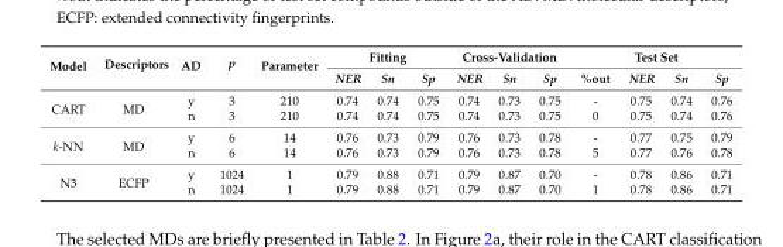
<table><thead><tr><td rowspan="2">Model</td><td rowspan="2">Descriptors</td><td rowspan="2">AD</td><td rowspan="2">p</td><td rowspan="2">Parameter</td><td colspan="3">Fitting</td><td colspan="3">Cross-Validation</td><td colspan="4">Test Set</td></tr><tr><td>NER</td><td>Sn</td><td>Sp</td><td>NER</td><td>Sn</td><td>Sp</td><td>%out</td><td>NER</td><td>Sn</td><td>Sp</td></tr></thead><tbody><tr><td rowspan="2">CART</td><td rowspan="2">MD</td><td>y</td><td>3</td><td>210</td><td>0.74</td><td>0.74</td><td>0.75</td><td>0.74</td><td>0.73</td><td>0.75</td><td>-</td><td>0.75</td><td>0.74</td><td>0.76</td></tr><tr><td>n</td><td>3</td><td>210</td><td>0.74</td><td>0.74</td><td>0.75</td><td>0.74</td><td>0.73</td><td>0.75</td><td>0</td><td>0.75</td><td>0.74</td><td>0.76</td></tr><tr><td rowspan="2">k-NN</td><td rowspan="2">MD</td><td>y</td><td>6</td><td>14</td><td>0.76</td><td>0.73</td><td>0.79</td><td>0.76</td><td>0.73</td><td>0.78</td><td>-</td><td>0.77</td><td>0.75</td><td>0.79</td></tr><tr><td>n</td><td>6</td><td>14</td><td>0.76</td><td>0.73</td><td>0.79</td><td>0.76</td><td>0.73</td><td>0.78</td><td>5</td><td>0.77</td><td>0.76</td><td>0.78</td></tr><tr><td rowspan="2">N3</td><td rowspan="2">ECFP</td><td>y</td><td>1024</td><td>1</td><td>0.79</td><td>0.88</td><td>0.71</td><td>0.79</td><td>0.87</td><td>0.70</td><td>-</td><td>0.78</td><td>0.86</td><td>0.71</td></tr><tr><td>n</td><td>1024</td><td>1</td><td>0.79</td><td>0.88</td><td>0.71</td><td>0.79</td><td>0.87</td><td>0.70</td><td>1</td><td>0.78</td><td>0.86</td><td>0.71</td></tr></tbody></table>